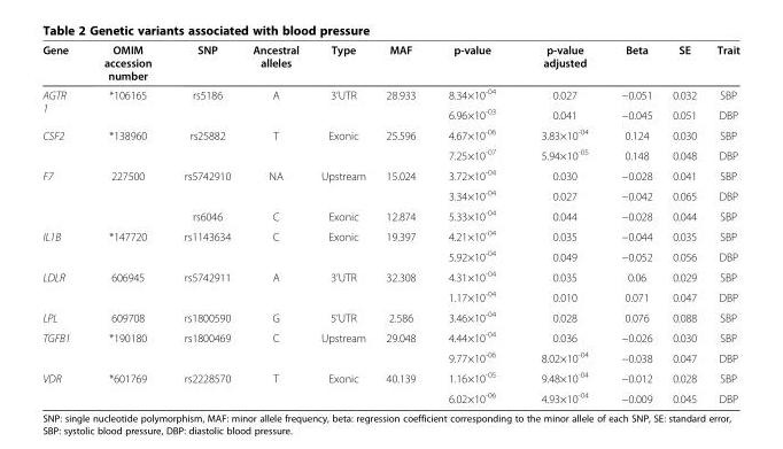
<table><thead><tr><td>Gene</td><td>OMIM accession number</td><td>SNP</td><td>Ancestral alleles</td><td>Type</td><td>MAF</td><td>p-value</td><td>p-value adjusted</td><td>Beta</td><td>SE</td><td>Trait</td></tr></thead><tbody><tr><td rowspan="2">AGTR 1</td><td rowspan="2">*106165</td><td rowspan="2">rs5186</td><td rowspan="2">A</td><td rowspan="2">3’UTR</td><td rowspan="2">28.933</td><td>8.34×10<sup>-04</sup></td><td>0.027</td><td>−0.051</td><td>0.032</td><td>SBP</td></tr><tr><td>6.96×10<sup>-03</sup></td><td>0.041</td><td>−0.045</td><td>0.051</td><td>DBP</td></tr><tr><td rowspan="2">CSF2</td><td rowspan="2">*138960</td><td rowspan="2">rs25882</td><td rowspan="2">T</td><td rowspan="2">Exonic</td><td rowspan="2">25.596</td><td>4.67×10<sup>-06</sup></td><td>3.83×10<sup>-04</sup></td><td>0.124</td><td>0.030</td><td>SBP</td></tr><tr><td>7.25×10<sup>-07</sup></td><td>5.94×10<sup>-05</sup></td><td>0.148</td><td>0.048</td><td>DBP</td></tr><tr><td rowspan="3">F7</td><td rowspan="3">227500</td><td rowspan="2">rs5742910</td><td rowspan="2">NA</td><td rowspan="2">Upstream</td><td rowspan="2">15.024</td><td>3.72×10<sup>-04</sup></td><td>0.030</td><td>−0.028</td><td>0.041</td><td>SBP</td></tr><tr><td>3.34×10<sup>-04</sup></td><td>0.027</td><td>−0.042</td><td>0.065</td><td>DBP</td></tr><tr><td>rs6046</td><td>C</td><td>Exonic</td><td>12.874</td><td>5.33×10<sup>-04</sup></td><td>0.044</td><td>−0.028</td><td>0.044</td><td>SBP</td></tr><tr><td rowspan="2">IL1B</td><td rowspan="2">*147720</td><td rowspan="2">rs1143634</td><td rowspan="2">C</td><td rowspan="2">Exonic</td><td rowspan="2">19.397</td><td>4.21×10<sup>-04</sup></td><td>0.035</td><td>−0.044</td><td>0.035</td><td>SBP</td></tr><tr><td>5.92×10<sup>-04</sup></td><td>0.049</td><td>−0.052</td><td>0.056</td><td>DBP</td></tr><tr><td rowspan="2">LDLR</td><td rowspan="2">606945</td><td rowspan="2">rs5742911</td><td rowspan="2">A</td><td rowspan="2">3’UTR</td><td rowspan="2">32.308</td><td>4.31×10<sup>-04</sup></td><td>0.035</td><td>0.06</td><td>0.029</td><td>SBP</td></tr><tr><td>1.17×10<sup>-04</sup></td><td>0.010</td><td>0.071</td><td>0.047</td><td>DBP</td></tr><tr><td>LPL</td><td>609708</td><td>rs1800590</td><td>G</td><td>5’UTR</td><td>2.586</td><td>3.46×10<sup>-04</sup></td><td>0.028</td><td>0.076</td><td>0.088</td><td>SBP</td></tr><tr><td rowspan="2">TGFB1</td><td rowspan="2">*190180</td><td rowspan="2">rs1800469</td><td rowspan="2">C</td><td rowspan="2">Upstream</td><td rowspan="2">29.048</td><td>4.44×10<sup>-04</sup></td><td>0.036</td><td>−0.026</td><td>0.030</td><td>SBP</td></tr><tr><td>9.77×10<sup>-06</sup></td><td>8.02×10<sup>-04</sup></td><td>−0.038</td><td>0.047</td><td>DBP</td></tr><tr><td rowspan="2">VDR</td><td>*601769</td><td>rs2228570</td><td>T</td><td>Exonic</td><td>40.139</td><td>1.16×10<sup>-05</sup></td><td>9.48×10<sup>-04</sup></td><td>−0.012</td><td>0.028</td><td>SBP</td></tr><tr><td></td><td></td><td></td><td></td><td></td><td>6.02×10<sup>-06</sup></td><td>4.93×10<sup>-04</sup></td><td>−0.009</td><td>0.045</td><td>DBP</td></tr></tbody></table>